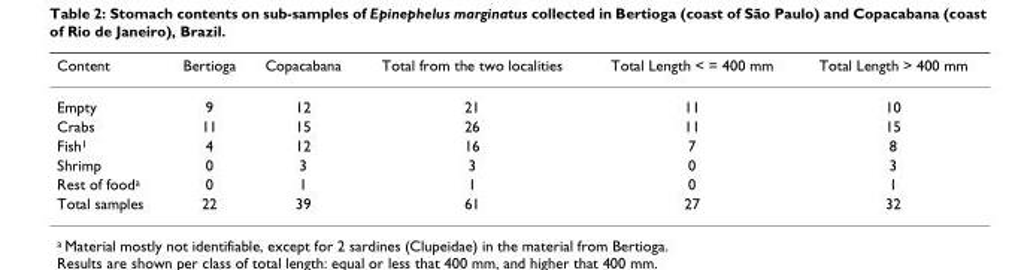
<table><thead><tr><td>Content</td><td>Bertioga</td><td>Copacabana</td><td>Total from the two localities</td><td>Total Length &lt; = 400 mm</td><td>Total Length &gt; 400 mm</td></tr></thead><tbody><tr><td>Empty</td><td>9</td><td>12</td><td>21</td><td>11</td><td>10</td></tr><tr><td>Crabs</td><td>11</td><td>15</td><td>26</td><td>11</td><td>15</td></tr><tr><td>Fish<sup>1</sup></td><td>4</td><td>12</td><td>16</td><td>7</td><td>8</td></tr><tr><td>Shrimp</td><td>0</td><td>3</td><td>3</td><td>0</td><td>3</td></tr><tr><td>Rest of food<sup>a</sup></td><td>0</td><td>1</td><td>1</td><td>0</td><td>1</td></tr><tr><td>Total samples</td><td>22</td><td>39</td><td>61</td><td>27</td><td>32</td></tr></tbody></table>